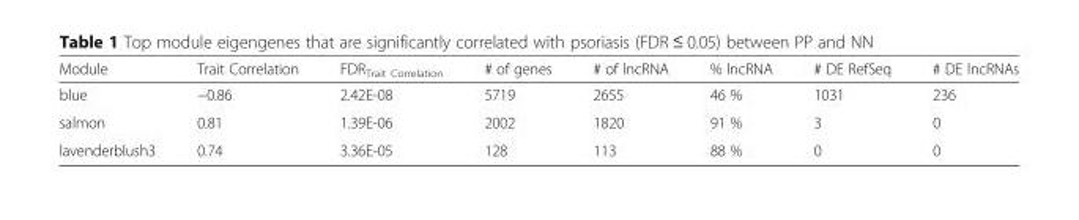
<table><thead><tr><td>Module</td><td>Trait Correlation</td><td>FDR<sub>Trait Correlation</sub></td><td># of genes</td><td># of lncRNA</td><td>% lncRNA</td><td># DE RefSeq</td><td># DE lncRNAs</td></tr></thead><tbody><tr><td>blue</td><td>−0.86</td><td>2.42E-08</td><td>5719</td><td>2655</td><td>46 %</td><td>1031</td><td>236</td></tr><tr><td>salmon</td><td>0.81</td><td>1.39E-06</td><td>2002</td><td>1820</td><td>91 %</td><td>3</td><td>0</td></tr><tr><td>lavenderblush3</td><td>0.74</td><td>3.36E-05</td><td>128</td><td>113</td><td>88 %</td><td>0</td><td>0</td></tr></tbody></table>